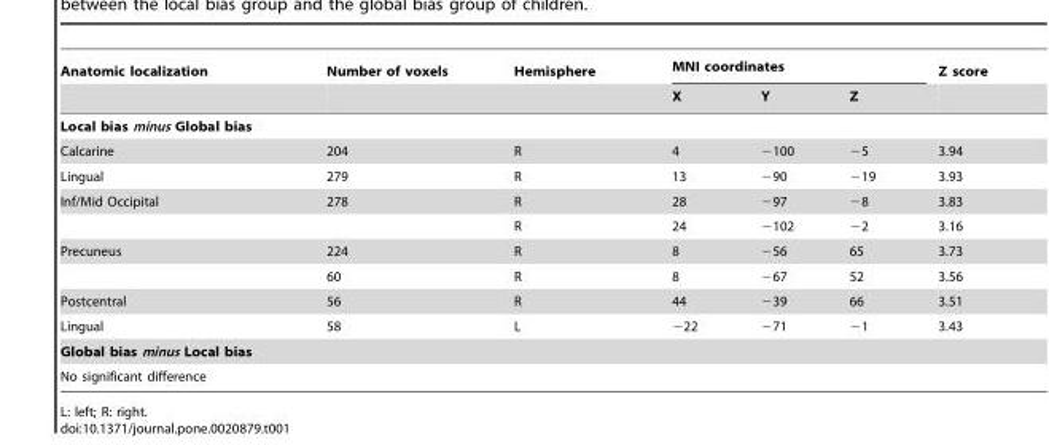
<table><thead><tr><td rowspan="2">Anatomic localization</td><td rowspan="2">Number of voxels</td><td rowspan="2">Hemisphere</td><td colspan="3">MNI coordinates</td><td rowspan="2">Z score</td></tr><tr><td>X</td><td>Y</td><td>Z</td></tr></thead><tbody><tr><td colspan="7">Local bias minus Global bias</td></tr><tr><td>Calcarine</td><td>204</td><td>R</td><td>4</td><td>−100</td><td>−5</td><td>3.94</td></tr><tr><td>Lingual</td><td>279</td><td>R</td><td>13</td><td>−90</td><td>−19</td><td>3.93</td></tr><tr><td rowspan="2">Inf/Mid Occipital</td><td>278</td><td>R</td><td>28</td><td>−97</td><td>−8</td><td>3.83</td></tr><tr><td></td><td>R</td><td>24</td><td>−102</td><td>−2</td><td>3.16</td></tr><tr><td rowspan="2">Precuneus</td><td>224</td><td>R</td><td>8</td><td>−56</td><td>65</td><td>3.73</td></tr><tr><td>60</td><td>R</td><td>8</td><td>−67</td><td>52</td><td>3.56</td></tr><tr><td>Postcentral</td><td>56</td><td>R</td><td>44</td><td>−39</td><td>66</td><td>3.51</td></tr><tr><td>Lingual</td><td>58</td><td>L</td><td>−22</td><td>−71</td><td>−1</td><td>3.43</td></tr><tr><td colspan="7">Global bias minus Local bias</td></tr><tr><td>No significant difference</td><td></td><td></td><td></td><td></td><td></td><td></td></tr></tbody></table>